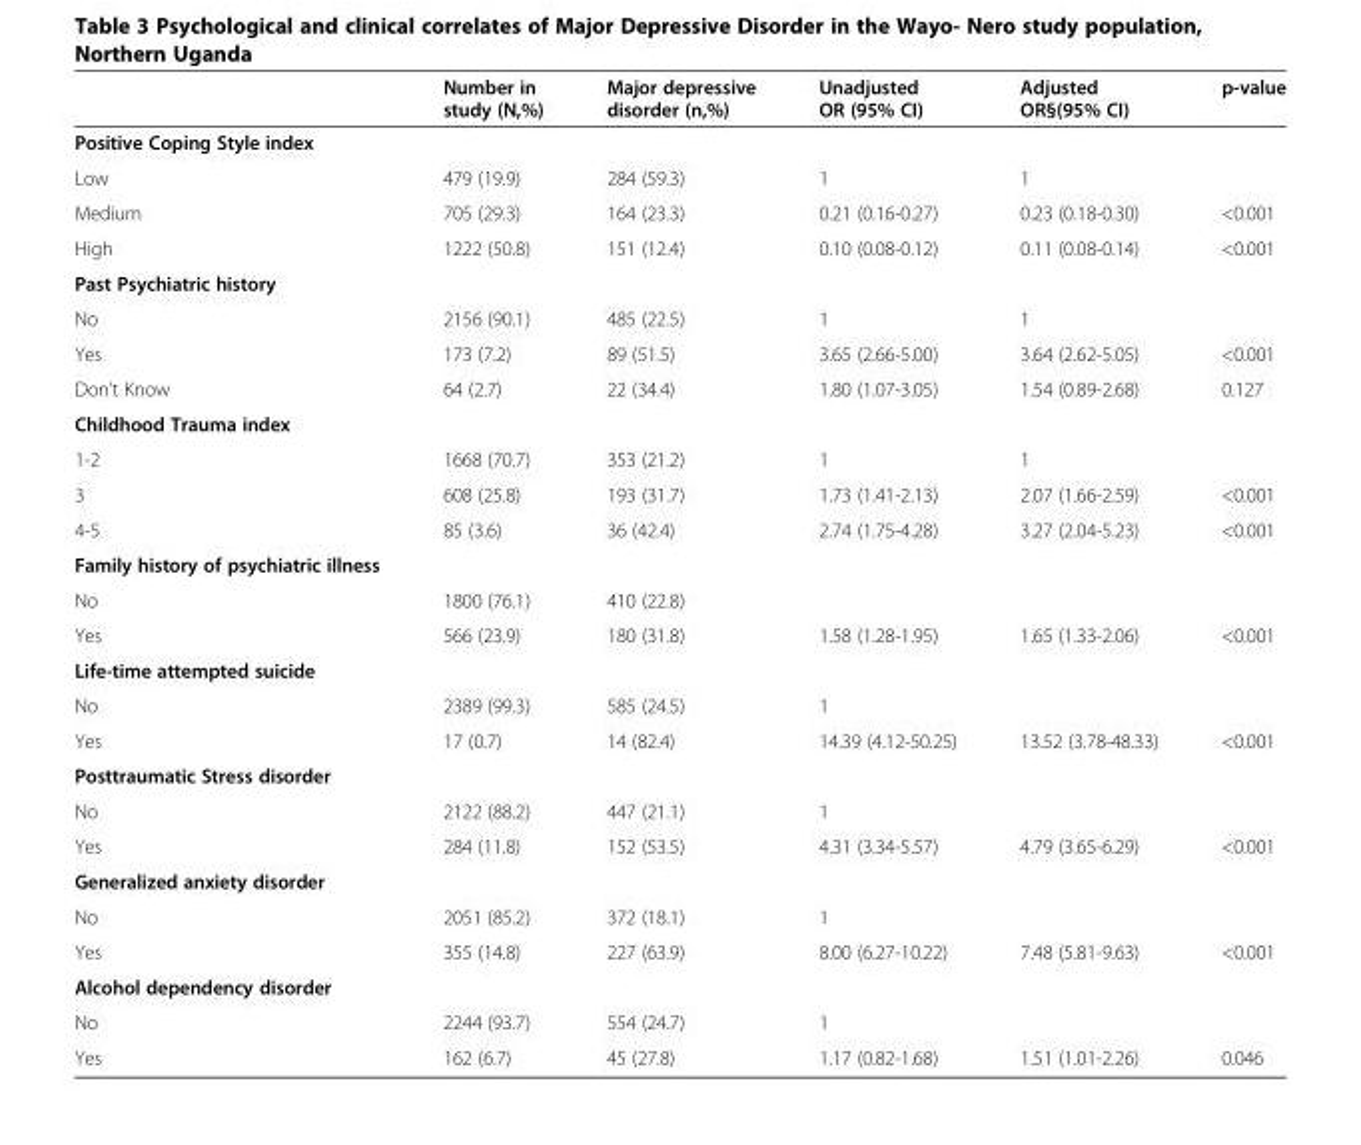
<table><thead><tr><td></td><td>Number in study (N,%)</td><td>Major depressive disorder (n,%)</td><td>Unadjusted OR (95% CI)</td><td>Adjusted OR§(95% CI)</td><td>p-value</td></tr></thead><tbody><tr><td colspan="6">Positive Coping Style index</td></tr><tr><td>Low</td><td>479 (19.9)</td><td>284 (59.3)</td><td>1</td><td>1</td><td></td></tr><tr><td>Medium</td><td>705 (29.3)</td><td>164 (23.3)</td><td>0.21 (0.16-0.27)</td><td>0.23 (0.18-0.30)</td><td>&lt;0.001</td></tr><tr><td>High</td><td>1222 (50.8)</td><td>151 (12.4)</td><td>0.10 (0.08-0.12)</td><td>0.11 (0.08-0.14)</td><td>&lt;0.001</td></tr><tr><td colspan="6">Past Psychiatric history</td></tr><tr><td>No</td><td>2156 (90.1)</td><td>485 (22.5)</td><td>1</td><td>1</td><td></td></tr><tr><td>Yes</td><td>173 (7.2)</td><td>89 (51.5)</td><td>3.65 (2.66-5.00)</td><td>3.64 (2.62-5.05)</td><td>&lt;0.001</td></tr><tr><td>Don’t Know</td><td>64 (2.7)</td><td>22 (34.4)</td><td>1.80 (1.07-3.05)</td><td>1.54 (0.89-2.68)</td><td>0.127</td></tr><tr><td colspan="6">Childhood Trauma index</td></tr><tr><td>1-2</td><td>1668 (70.7)</td><td>353 (21.2)</td><td>1</td><td>1</td><td></td></tr><tr><td>3</td><td>608 (25.8)</td><td>193 (31.7)</td><td>1.73 (1.41-2.13)</td><td>2.07 (1.66-2.59)</td><td>&lt;0.001</td></tr><tr><td>4-5</td><td>85 (3.6)</td><td>36 (42.4)</td><td>2.74 (1.75-4.28)</td><td>3.27 (2.04-5.23)</td><td>&lt;0.001</td></tr><tr><td colspan="6">Family history of psychiatric illness</td></tr><tr><td>No</td><td>1800 (76.1)</td><td>410 (22.8)</td><td></td><td></td><td></td></tr><tr><td>Yes</td><td>566 (23.9)</td><td>180 (31.8)</td><td>1.58 (1.28-1.95)</td><td>1.65 (1.33-2.06)</td><td>&lt;0.001</td></tr><tr><td colspan="6">Life-time attempted suicide</td></tr><tr><td>No</td><td>2389 (99.3)</td><td>585 (24.5)</td><td>1</td><td></td><td></td></tr><tr><td>Yes</td><td>17 (0.7)</td><td>14 (82.4)</td><td>14.39 (4.12-50.25)</td><td>13.52 (3.78-48.33)</td><td>&lt;0.001</td></tr><tr><td colspan="6">Posttraumatic Stress disorder</td></tr><tr><td>No</td><td>2122 (88.2)</td><td>447 (21.1)</td><td>1</td><td></td><td></td></tr><tr><td>Yes</td><td>284 (11.8)</td><td>152 (53.5)</td><td>4.31 (3.34-5.57)</td><td>4.79 (3.65-6.29)</td><td>&lt;0.001</td></tr><tr><td colspan="6">Generalized anxiety disorder</td></tr><tr><td>No</td><td>2051 (85.2)</td><td>372 (18.1)</td><td>1</td><td></td><td></td></tr><tr><td>Yes</td><td>355 (14.8)</td><td>227 (63.9)</td><td>8.00 (6.27-10.22)</td><td>7.48 (5.81-9.63)</td><td>&lt;0.001</td></tr><tr><td colspan="6">Alcohol dependency disorder</td></tr><tr><td>No</td><td>2244 (93.7)</td><td>554 (24.7)</td><td>1</td><td></td><td></td></tr><tr><td>Yes</td><td>162 (6.7)</td><td>45 (27.8)</td><td>1.17 (0.82-1.68)</td><td>1.51 (1.01-2.26)</td><td>0.046</td></tr></tbody></table>